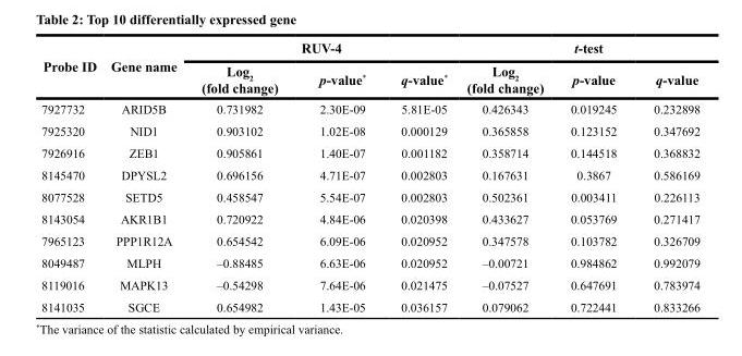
<table><thead><tr><td rowspan="2">Probe ID</td><td rowspan="2">Gene name</td><td colspan="3">RUV-4</td><td colspan="3">t-test</td></tr><tr><td>Log<sub>2</sub> (fold change)</td><td>p-value*</td><td>q-value*</td><td>Log<sub>2</sub> (fold change)</td><td>p-value</td><td>q-value</td></tr></thead><tbody><tr><td>7927732</td><td>ARID5B</td><td>0.731982</td><td>2.30E-09</td><td>5.81E-05</td><td>0.426343</td><td>0.019245</td><td>0.232898</td></tr><tr><td>7925320</td><td>NID1</td><td>0.903102</td><td>1.02E-08</td><td>0.000129</td><td>0.365858</td><td>0.123152</td><td>0.347692</td></tr><tr><td>7926916</td><td>ZEB1</td><td>0.905861</td><td>1.40E-07</td><td>0.001182</td><td>0.358714</td><td>0.144518</td><td>0.368832</td></tr><tr><td>8145470</td><td>DPYSL2</td><td>0.696156</td><td>4.71E-07</td><td>0.002803</td><td>0.167631</td><td>0.3867</td><td>0.586169</td></tr><tr><td>8077528</td><td>SETD5</td><td>0.458547</td><td>5.54E-07</td><td>0.002803</td><td>0.502361</td><td>0.003411</td><td>0.226113</td></tr><tr><td>8143054</td><td>AKR1B1</td><td>0.720922</td><td>4.84E-06</td><td>0.020398</td><td>0.433627</td><td>0.053769</td><td>0.271417</td></tr><tr><td>7965123</td><td>PPP1R12A</td><td>0.654542</td><td>6.09E-06</td><td>0.020952</td><td>0.347578</td><td>0.103782</td><td>0.326709</td></tr><tr><td>8049487</td><td>MLPH</td><td>–0.88485</td><td>6.63E-06</td><td>0.020952</td><td>–0.00721</td><td>0.984862</td><td>0.992079</td></tr><tr><td>8119016</td><td>MAPK13</td><td>–0.54298</td><td>7.64E-06</td><td>0.021475</td><td>–0.07527</td><td>0.647691</td><td>0.783974</td></tr><tr><td>8141035</td><td>SGCE</td><td>0.654982</td><td>1.43E-05</td><td>0.036157</td><td>0.079062</td><td>0.722441</td><td>0.833266</td></tr></tbody></table>